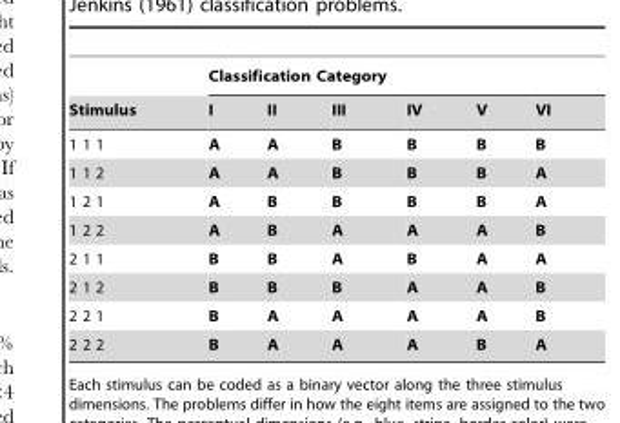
<table><thead><tr><td rowspan="2">Stimulus</td><td colspan="6">Classification Category</td></tr><tr><td>I</td><td>II</td><td>III</td><td>IV</td><td>V</td><td>VI</td></tr></thead><tbody><tr><td>1 1 1</td><td>A</td><td>A</td><td>B</td><td>B</td><td>B</td><td>B</td></tr><tr><td>1 1 2</td><td>A</td><td>A</td><td>B</td><td>B</td><td>B</td><td>A</td></tr><tr><td>1 2 1</td><td>A</td><td>B</td><td>B</td><td>B</td><td>B</td><td>A</td></tr><tr><td>1 2 2</td><td>A</td><td>B</td><td>A</td><td>A</td><td>A</td><td>B</td></tr><tr><td>2 1 1</td><td>B</td><td>B</td><td>A</td><td>B</td><td>A</td><td>A</td></tr><tr><td>2 1 2</td><td>B</td><td>B</td><td>B</td><td>A</td><td>A</td><td>B</td></tr><tr><td>2 2 1</td><td>B</td><td>A</td><td>A</td><td>A</td><td>A</td><td>B</td></tr><tr><td>2 2 2</td><td>B</td><td>A</td><td>A</td><td>A</td><td>B</td><td>A</td></tr></tbody></table>